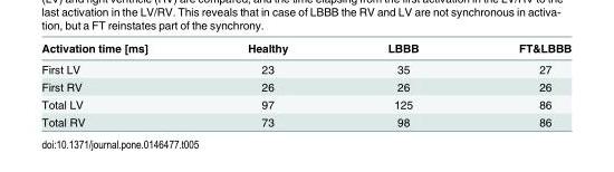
<table><thead><tr><td>Activation time [ms]</td><td>Healthy</td><td>LBBB</td><td>FT&amp;LBBB</td></tr></thead><tbody><tr><td>First LV</td><td>23</td><td>35</td><td>27</td></tr><tr><td>First RV</td><td>26</td><td>26</td><td>26</td></tr><tr><td>Total LV</td><td>97</td><td>125</td><td>86</td></tr><tr><td>Total RV</td><td>73</td><td>98</td><td>86</td></tr></tbody></table>